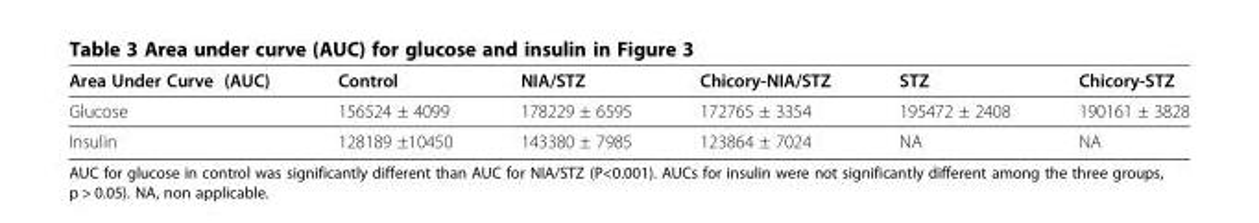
<table><thead><tr><td>Area Under Curve (AUC)</td><td>Control</td><td>NIA/STZ</td><td>Chicory-NIA/STZ</td><td>STZ</td><td>Chicory-STZ</td></tr></thead><tbody><tr><td>Glucose</td><td>156524 ± 4099</td><td>178229 ± 6595</td><td>172765 ± 3354</td><td>195472 ± 2408</td><td>190161 ± 3828</td></tr><tr><td>Insulin</td><td>128189 ±10450</td><td>143380 ± 7985</td><td>123864 ± 7024</td><td>NA</td><td>NA</td></tr></tbody></table>